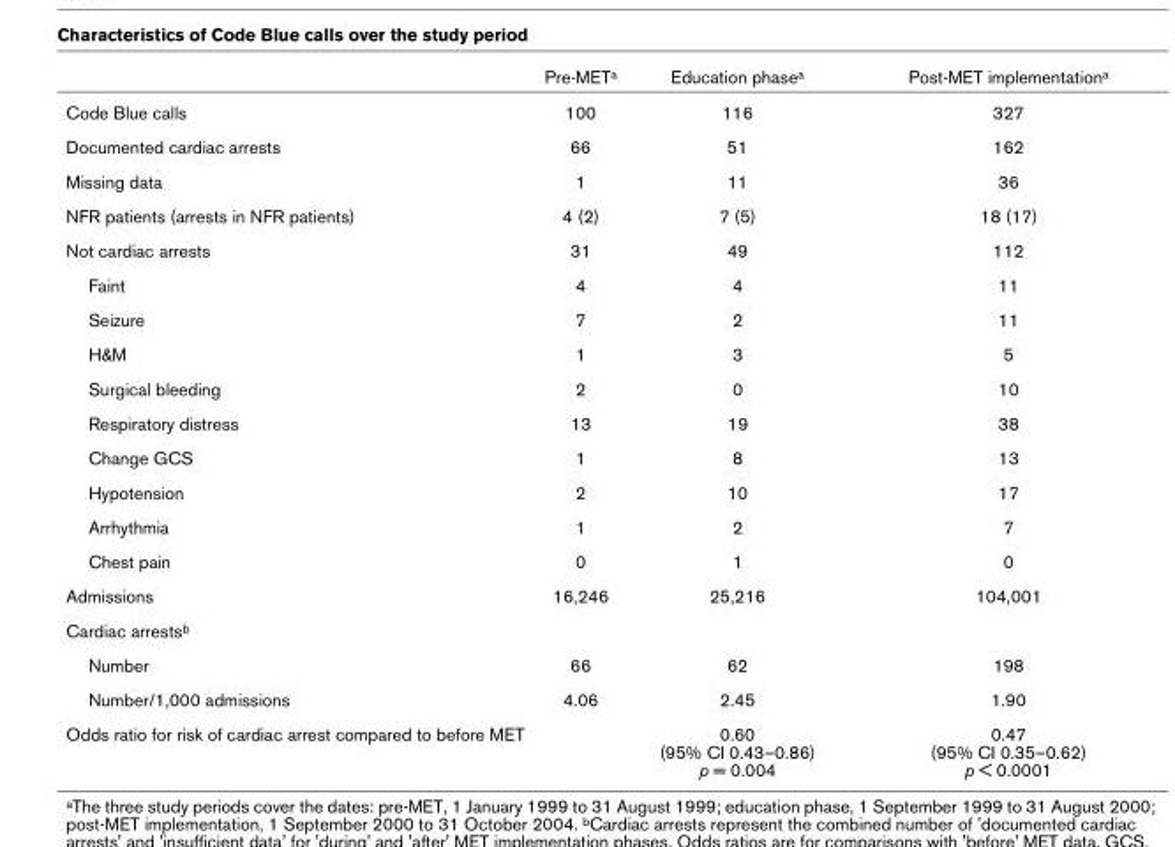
<table><thead><tr><td></td><td>Pre-METa</td><td>Education phasea</td><td>Post-MET implementationa</td></tr></thead><tbody><tr><td>Code Blue calls</td><td>100</td><td>116</td><td>327</td></tr><tr><td>Documented cardiac arrests</td><td>66</td><td>51</td><td>162</td></tr><tr><td>Missing data</td><td>1</td><td>11</td><td>36</td></tr><tr><td>NFR patients (arrests in NFR patients)</td><td>4 (2)</td><td>7 (5)</td><td>18 (17)</td></tr><tr><td>Not cardiac arrests</td><td>31</td><td>49</td><td>112</td></tr><tr><td>Faint</td><td>4</td><td>4</td><td>11</td></tr><tr><td>Seizure</td><td>7</td><td>2</td><td>11</td></tr><tr><td>H&amp;M</td><td>1</td><td>3</td><td>5</td></tr><tr><td>Surgical bleeding</td><td>2</td><td>0</td><td>10</td></tr><tr><td>Respiratory distress</td><td>13</td><td>19</td><td>38</td></tr><tr><td>Change GCS</td><td>1</td><td>8</td><td>13</td></tr><tr><td>Hypotension</td><td>2</td><td>10</td><td>17</td></tr><tr><td>Arrhythmia</td><td>1</td><td>2</td><td>7</td></tr><tr><td>Chest pain</td><td>0</td><td>1</td><td>0</td></tr><tr><td>Admissions</td><td>16,246</td><td>25,216</td><td>104,001</td></tr><tr><td colspan="4">Cardiac arrestsb</td></tr><tr><td>Number</td><td>66</td><td>62</td><td>198</td></tr><tr><td>Number/1,000 admissions</td><td>4.06</td><td>2.45</td><td>1.90</td></tr><tr><td>Odds ratio for risk of cardiac arrest compared to before MET</td><td></td><td>0.60 (95% CI 0.43–0.86) p = 0.004</td><td>0.47 (95% CI 0.35–0.62) p &lt; 0.0001</td></tr></tbody></table>